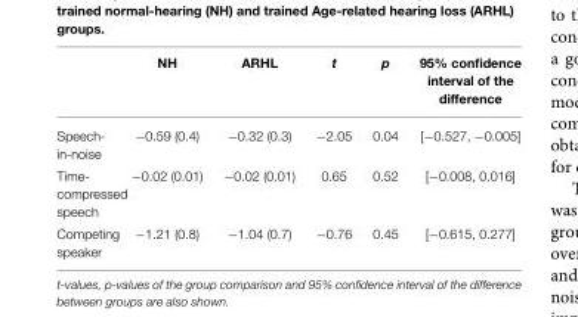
<table><thead><tr><td></td><td>NH</td><td>ARHL</td><td>t</td><td>p</td><td>95% confidence interval of the difference</td></tr></thead><tbody><tr><td>Speech- in-noise</td><td>−0.59 (0.4)</td><td>−0.32 (0.3)</td><td>−2.05</td><td>0.04</td><td>[−0.527, −0.005]</td></tr><tr><td>Time- compressed speech</td><td>−0.02 (0.01)</td><td>−0.02 (0.01)</td><td>0.65</td><td>0.52</td><td>[−0.008, 0.016]</td></tr><tr><td>Competing speaker</td><td>−1.21 (0.8)</td><td>−1.04 (0.7)</td><td>−0.76</td><td>0.45</td><td>[−0.615, 0.277]</td></tr></tbody></table>